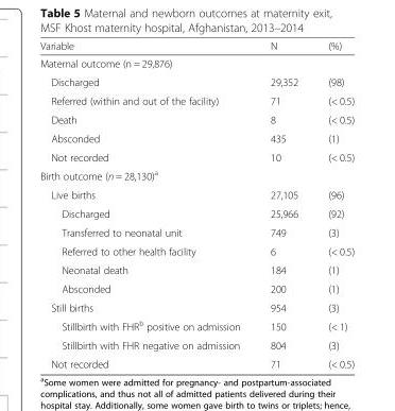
<table><thead><tr><td>Variable</td><td>N</td><td>(%)</td></tr></thead><tbody><tr><td colspan="3">Maternal outcome (n = 29,876)</td></tr><tr><td>Discharged</td><td>29,352</td><td>(98)</td></tr><tr><td>Referred (within and out of the facility)</td><td>71</td><td>(&lt; 0.5)</td></tr><tr><td>Death</td><td>8</td><td>(&lt; 0.5)</td></tr><tr><td>Absconded</td><td>435</td><td>(1)</td></tr><tr><td>Not recorded</td><td>10</td><td>(&lt; 0.5)</td></tr><tr><td colspan="3">Birth outcome (n = 28,130)<sup>a</sup></td></tr><tr><td>Live births</td><td>27,105</td><td>(96)</td></tr><tr><td>Discharged</td><td>25,966</td><td>(92)</td></tr><tr><td>Transferred to neonatal unit</td><td>749</td><td>(3)</td></tr><tr><td>Referred to other health facility</td><td>6</td><td>(&lt; 0.5)</td></tr><tr><td>Neonatal death</td><td>184</td><td>(1)</td></tr><tr><td>Absconded</td><td>200</td><td>(1)</td></tr><tr><td>Still births</td><td>954</td><td>(3)</td></tr><tr><td>Stillbirth with FHR<sup>b</sup> positive on admission</td><td>150</td><td>(&lt; 1)</td></tr><tr><td>Stillbirth with FHR negative on admission</td><td>804</td><td>(3)</td></tr><tr><td>Not recorded</td><td>71</td><td>(&lt; 0.5)</td></tr></tbody></table>